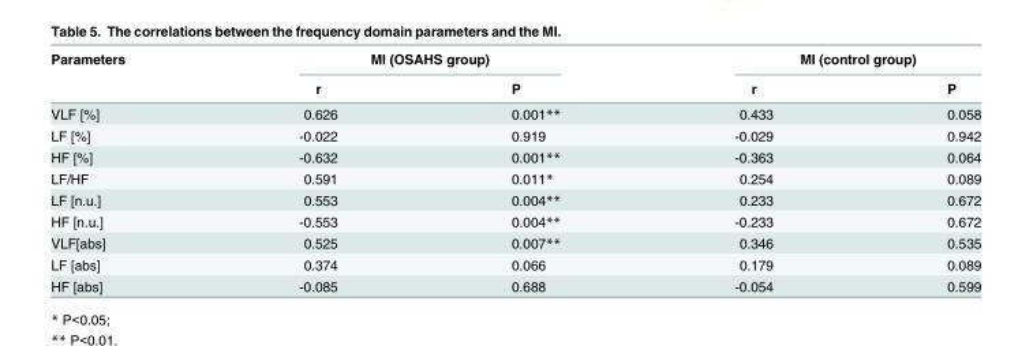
<table><thead><tr><td rowspan="2">Parameters</td><td colspan="2">MI (OSAHS group)</td><td colspan="2">MI (control group)</td></tr><tr><td>r</td><td>P</td><td>r</td><td>P</td></tr></thead><tbody><tr><td>VLF [%]</td><td>0.626</td><td>0.001**</td><td>0.433</td><td>0.058</td></tr><tr><td>LF [%]</td><td>-0.022</td><td>0.919</td><td>-0.029</td><td>0.942</td></tr><tr><td>HF [%]</td><td>-0.632</td><td>0.001**</td><td>-0.363</td><td>0.064</td></tr><tr><td>LF/HF</td><td>0.591</td><td>0.011*</td><td>0.254</td><td>0.089</td></tr><tr><td>LF [n.u.]</td><td>0.553</td><td>0.004**</td><td>0.233</td><td>0.672</td></tr><tr><td>HF [n.u.]</td><td>-0.553</td><td>0.004**</td><td>-0.233</td><td>0.672</td></tr><tr><td>VLF[abs]</td><td>0.525</td><td>0.007**</td><td>0.346</td><td>0.535</td></tr><tr><td>LF [abs]</td><td>0.374</td><td>0.066</td><td>0.179</td><td>0.089</td></tr><tr><td>HF [abs]</td><td>-0.085</td><td>0.688</td><td>-0.054</td><td>0.599</td></tr></tbody></table>